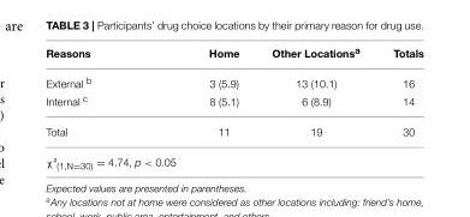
<table><thead><tr><td>Reasons</td><td>Home</td><td>Other Locations<sup>a</sup></td><td>Totals</td></tr></thead><tbody><tr><td>External <sup>b</sup></td><td>3 (5.9)</td><td>13 (10.1)</td><td>16</td></tr><tr><td>Internal <sup>c</sup></td><td>8 (5.1)</td><td>6 (8.9)</td><td>14</td></tr><tr><td>Total</td><td>11</td><td>19</td><td>30</td></tr><tr><td>χ²<sub>(1,N=30)</sub> = 4.74, p &lt; 0.05</td><td></td><td></td><td></td></tr></tbody></table>